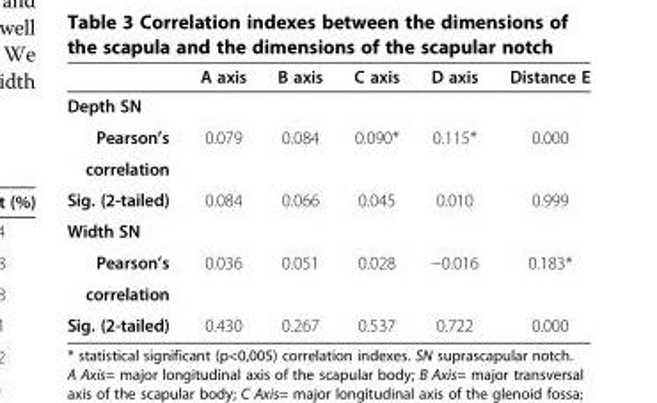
<table><thead><tr><td></td><td>A axis</td><td>B axis</td><td>C axis</td><td>D axis</td><td>Distance E</td></tr></thead><tbody><tr><td colspan="6">Depth SN</td></tr><tr><td>Pearson’s</td><td>0.079</td><td>0.084</td><td>0.090*</td><td>0.115*</td><td>0.000</td></tr><tr><td colspan="6">correlation</td></tr><tr><td>Sig. (2-tailed)</td><td>0.084</td><td>0.066</td><td>0.045</td><td>0.010</td><td>0.999</td></tr><tr><td colspan="6">Width SN</td></tr><tr><td>Pearson’s</td><td>0.036</td><td>0.051</td><td>0.028</td><td>−0.016</td><td>0.183*</td></tr><tr><td colspan="6">correlation</td></tr><tr><td>Sig. (2-tailed)</td><td>0.430</td><td>0.267</td><td>0.537</td><td>0.722</td><td>0.000</td></tr></tbody></table>